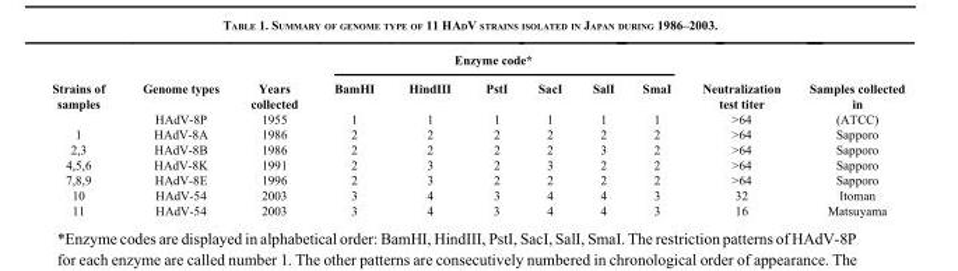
<table><thead><tr><td rowspan="2">Strains of samples</td><td rowspan="2">Genome types</td><td rowspan="2">Years collected</td><td colspan="6">Enzyme code*</td><td rowspan="2">Neutralization test titer</td><td rowspan="2">Samples collected in</td></tr><tr><td>BamHI</td><td>HindIII</td><td>PstI</td><td>SacI</td><td>SalI</td><td>SmaI</td></tr></thead><tbody><tr><td></td><td>HAdV-8P</td><td>1955</td><td>1</td><td>1</td><td>1</td><td>1</td><td>1</td><td>1</td><td>&gt;64</td><td>(ATCC)</td></tr><tr><td>1</td><td>HAdV-8A</td><td>1986</td><td>2</td><td>2</td><td>2</td><td>2</td><td>2</td><td>2</td><td>&gt;64</td><td>Sapporo</td></tr><tr><td>2,3</td><td>HAdV-8B</td><td>1986</td><td>2</td><td>2</td><td>2</td><td>2</td><td>3</td><td>2</td><td>&gt;64</td><td>Sapporo</td></tr><tr><td>4,5,6</td><td>HAdV-8K</td><td>1991</td><td>2</td><td>3</td><td>2</td><td>3</td><td>2</td><td>2</td><td>&gt;64</td><td>Sapporo</td></tr><tr><td>7,8,9</td><td>HAdV-8E</td><td>1996</td><td>2</td><td>3</td><td>2</td><td>2</td><td>2</td><td>2</td><td>&gt;64</td><td>Sapporo</td></tr><tr><td>10</td><td>HAdV-54</td><td>2003</td><td>3</td><td>4</td><td>3</td><td>4</td><td>4</td><td>3</td><td>32</td><td>Itoman</td></tr><tr><td>11</td><td>HAdV-54</td><td>2003</td><td>3</td><td>4</td><td>3</td><td>4</td><td>4</td><td>3</td><td>16</td><td>Matsuyama</td></tr></tbody></table>